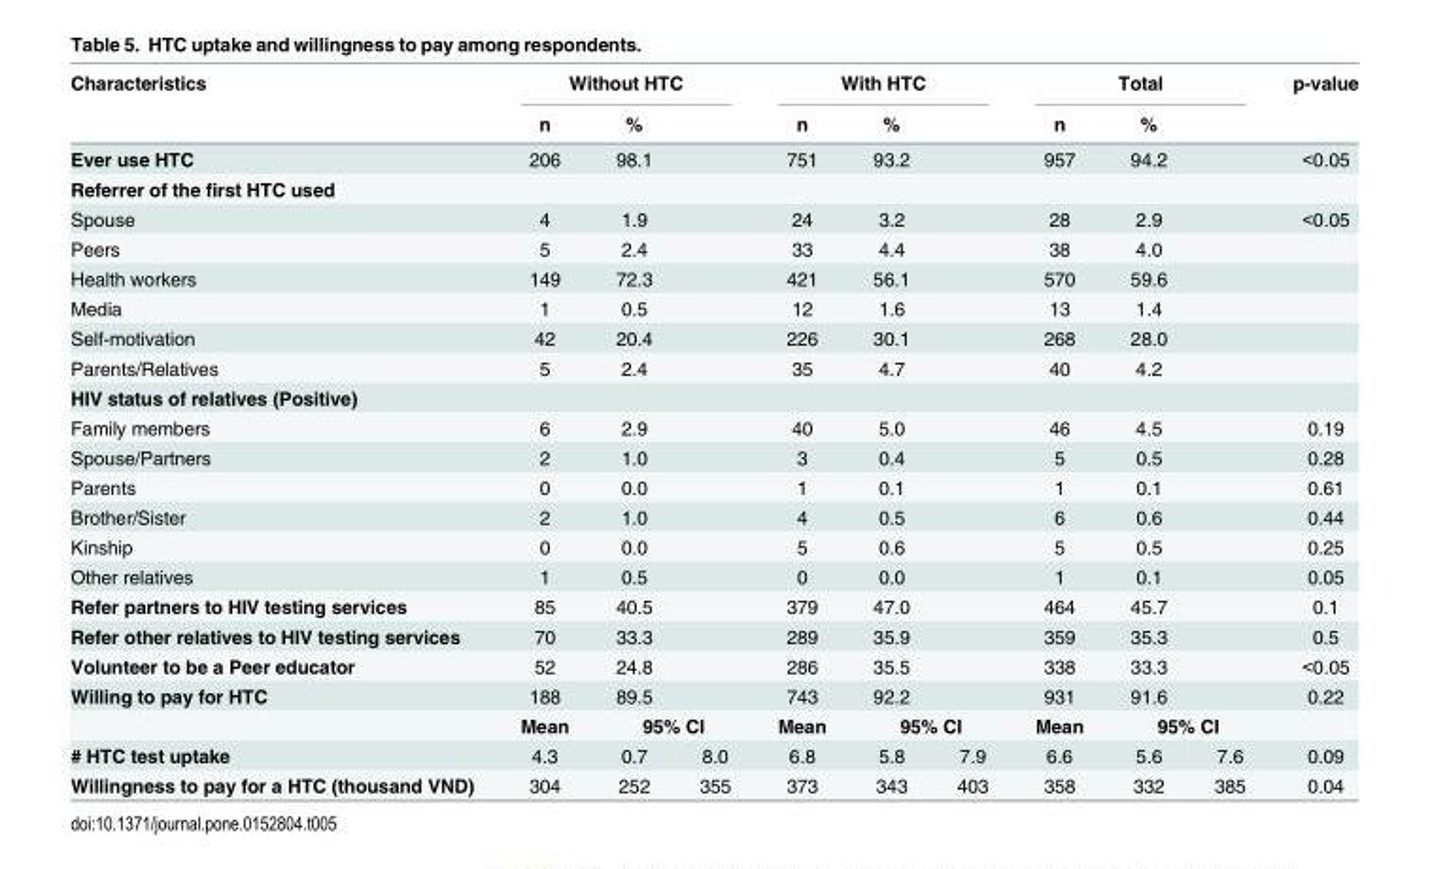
<table><thead><tr><td rowspan="2">Characteristics</td><td colspan="3">Without HTC</td><td colspan="3">With HTC</td><td colspan="3">Total</td><td rowspan="2">p-value</td></tr><tr><td>n</td><td>%</td><td></td><td>n</td><td>%</td><td></td><td>n</td><td>%</td><td></td></tr></thead><tbody><tr><td>Ever use HTC</td><td>206</td><td>98.1</td><td></td><td>751</td><td>93.2</td><td></td><td>957</td><td>94.2</td><td></td><td>&lt;0.05</td></tr><tr><td colspan="11">Referrer of the first HTC used</td></tr><tr><td>Spouse</td><td>4</td><td>1.9</td><td></td><td>24</td><td>3.2</td><td></td><td>28</td><td>2.9</td><td></td><td>&lt;0.05</td></tr><tr><td>Peers</td><td>5</td><td>2.4</td><td></td><td>33</td><td>4.4</td><td></td><td>38</td><td>4.0</td><td></td><td></td></tr><tr><td>Health workers</td><td>149</td><td>72.3</td><td></td><td>421</td><td>56.1</td><td></td><td>570</td><td>59.6</td><td></td><td></td></tr><tr><td>Media</td><td>1</td><td>0.5</td><td></td><td>12</td><td>1.6</td><td></td><td>13</td><td>1.4</td><td></td><td></td></tr><tr><td>Self-motivation</td><td>42</td><td>20.4</td><td></td><td>226</td><td>30.1</td><td></td><td>268</td><td>28.0</td><td></td><td></td></tr><tr><td>Parents/Relatives</td><td>5</td><td>2.4</td><td></td><td>35</td><td>4.7</td><td></td><td>40</td><td>4.2</td><td></td><td></td></tr><tr><td colspan="11">HIV status of relatives (Positive)</td></tr><tr><td>Family members</td><td>6</td><td>2.9</td><td></td><td>40</td><td>5.0</td><td></td><td>46</td><td>4.5</td><td></td><td>0.19</td></tr><tr><td>Spouse/Partners</td><td>2</td><td>1.0</td><td></td><td>3</td><td>0.4</td><td></td><td>5</td><td>0.5</td><td></td><td>0.28</td></tr><tr><td>Parents</td><td>0</td><td>0.0</td><td></td><td>1</td><td>0.1</td><td></td><td>1</td><td>0.1</td><td></td><td>0.61</td></tr><tr><td>Brother/Sister</td><td>2</td><td>1.0</td><td></td><td>4</td><td>0.5</td><td></td><td>6</td><td>0.6</td><td></td><td>0.44</td></tr><tr><td>Kinship</td><td>0</td><td>0.0</td><td></td><td>5</td><td>0.6</td><td></td><td>5</td><td>0.5</td><td></td><td>0.25</td></tr><tr><td>Other relatives</td><td>1</td><td>0.5</td><td></td><td>0</td><td>0.0</td><td></td><td>1</td><td>0.1</td><td></td><td>0.05</td></tr><tr><td>Refer partners to HIV testing services</td><td>85</td><td>40.5</td><td></td><td>379</td><td>47.0</td><td></td><td>464</td><td>45.7</td><td></td><td>0.1</td></tr><tr><td>Refer other relatives to HIV testing services</td><td>70</td><td>33.3</td><td></td><td>289</td><td>35.9</td><td></td><td>359</td><td>35.3</td><td></td><td>0.5</td></tr><tr><td>Volunteer to be a Peer educator</td><td>52</td><td>24.8</td><td></td><td>286</td><td>35.5</td><td></td><td>338</td><td>33.3</td><td></td><td>&lt;0.05</td></tr><tr><td rowspan="2">Willing to pay for HTC</td><td>188</td><td>89.5</td><td></td><td>743</td><td>92.2</td><td></td><td>931</td><td>91.6</td><td></td><td>0.22</td></tr><tr><td>Mean</td><td colspan="2">95% CI</td><td>Mean</td><td colspan="2">95% CI</td><td>Mean</td><td colspan="2">95% CI</td><td></td></tr><tr><td># HTC test uptake</td><td>4.3</td><td>0.7</td><td>8.0</td><td>6.8</td><td>5.8</td><td>7.9</td><td>6.6</td><td>5.6</td><td>7.6</td><td>0.09</td></tr><tr><td>Willingness to pay for a HTC (thousand VND)</td><td>304</td><td>252</td><td>355</td><td>373</td><td>343</td><td>403</td><td>358</td><td>332</td><td>385</td><td>0.04</td></tr></tbody></table>